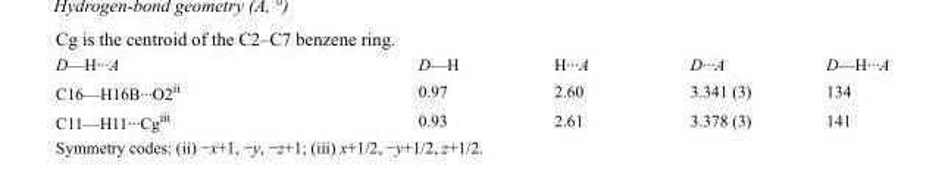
<table><tbody><tr><td>D—H···A</td><td>D—H</td><td>H···A</td><td>D···A</td><td>D—H···A</td></tr><tr><td>C16—H16B···O2<sup>ii</sup></td><td>0.97</td><td>2.60</td><td>3.341 (3)</td><td>134</td></tr><tr><td>C11—H11···Cg<sup>iii</sup></td><td>0.93</td><td>2.61</td><td>3.378 (3)</td><td>141</td></tr></tbody></table>